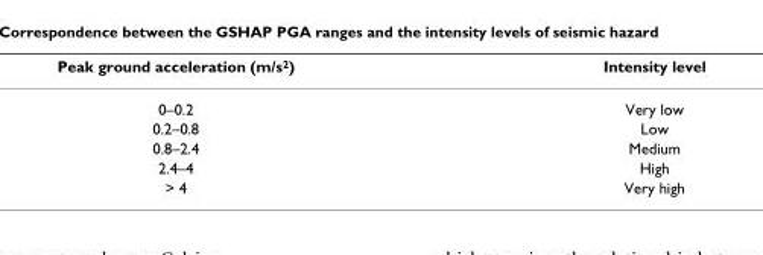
<table><thead><tr><td>Peak ground acceleration (m/s<sup>2</sup>)</td><td>Intensity level</td></tr></thead><tbody><tr><td>0–0.2</td><td>Very low</td></tr><tr><td>0.2–0.8</td><td>Low</td></tr><tr><td>0.8–2.4</td><td>Medium</td></tr><tr><td>2.4–4</td><td>High</td></tr><tr><td>&gt; 4</td><td>Very high</td></tr></tbody></table>